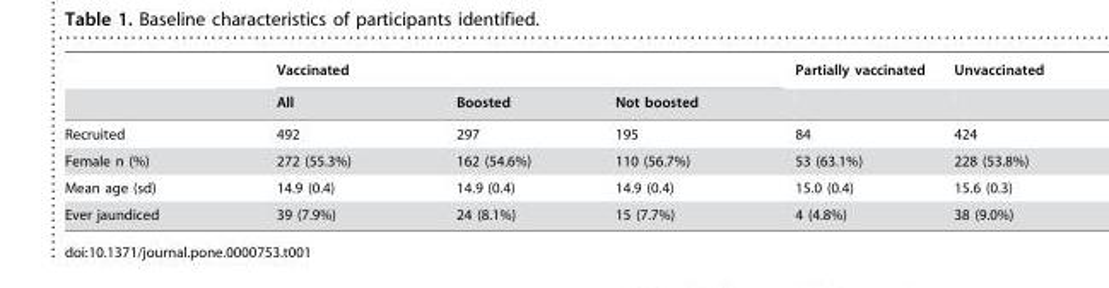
<table><thead><tr><td rowspan="2"></td><td colspan="3">Vaccinated</td><td rowspan="2">Partially vaccinated</td><td rowspan="2">Unvaccinated</td></tr><tr><td>All</td><td>Boosted</td><td>Not boosted</td></tr></thead><tbody><tr><td>Recruited</td><td>492</td><td>297</td><td>195</td><td>84</td><td>424</td></tr><tr><td>Female n (%)</td><td>272 (55.3%)</td><td>162 (54.6%)</td><td>110 (56.7%)</td><td>53 (63.1%)</td><td>228 (53.8%)</td></tr><tr><td>Mean age (sd)</td><td>14.9 (0.4)</td><td>14.9 (0.4)</td><td>14.9 (0.4)</td><td>15.0 (0.4)</td><td>15.6 (0.3)</td></tr><tr><td>Ever jaundiced</td><td>39 (7.9%)</td><td>24 (8.1%)</td><td>15 (7.7%)</td><td>4 (4.8%)</td><td>38 (9.0%)</td></tr></tbody></table>